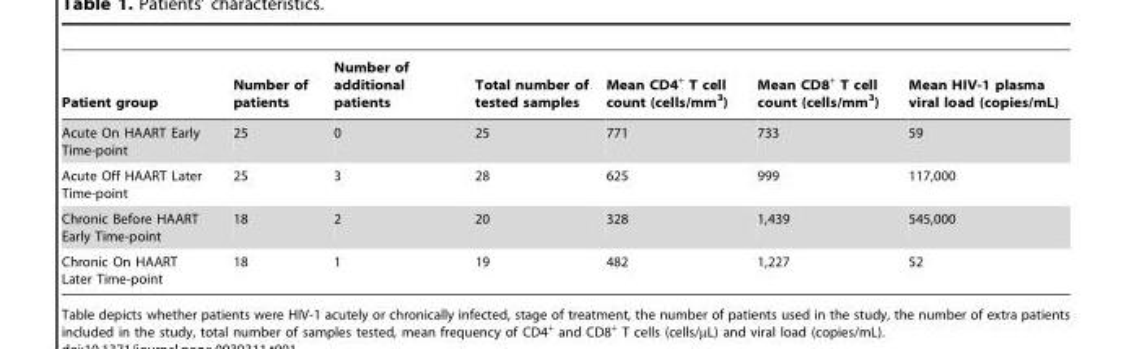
<table><thead><tr><td>Patient group</td><td>Number of patients</td><td>Number of additional patients</td><td>Total number of tested samples</td><td>Mean CD4<sup>+</sup> T cell count (cells/mm<sup>3</sup>)</td><td>Mean CD8<sup>+</sup> T cell count (cells/mm<sup>3</sup>)</td><td>Mean HIV-1 plasma viral load (copies/mL)</td></tr></thead><tbody><tr><td>Acute On HAART Early Time-point</td><td>25</td><td>0</td><td>25</td><td>771</td><td>733</td><td>59</td></tr><tr><td>Acute Off HAART Later Time-point</td><td>25</td><td>3</td><td>28</td><td>625</td><td>999</td><td>117,000</td></tr><tr><td>Chronic Before HAART Early Time-point</td><td>18</td><td>2</td><td>20</td><td>328</td><td>1,439</td><td>545,000</td></tr><tr><td>Chronic On HAART Later Time-point</td><td>18</td><td>1</td><td>19</td><td>482</td><td>1,227</td><td>52</td></tr></tbody></table>